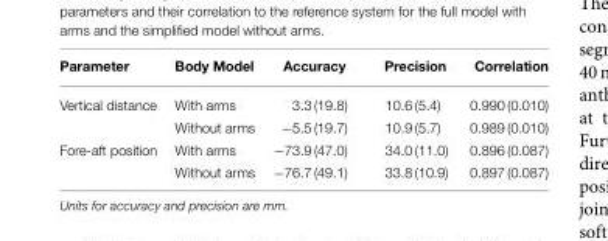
<table><thead><tr><td>Parameter</td><td>Body Model</td><td>Accuracy</td><td>Precision</td><td>Correlation</td></tr></thead><tbody><tr><td rowspan="2">Vertical distance</td><td>With arms</td><td>3.3 (19.8)</td><td>10.6 (5.4)</td><td>0.990 (0.010)</td></tr><tr><td>Without arms</td><td>−5.5 (19.7)</td><td>10.9 (5.7)</td><td>0.989 (0.010)</td></tr><tr><td rowspan="2">Fore-aft position</td><td>With arms</td><td>−73.9 (47.0)</td><td>34.0 (11.0)</td><td>0.896 (0.087)</td></tr><tr><td>Without arms</td><td>−76.7 (49.1)</td><td>33.8 (10.9)</td><td>0.897 (0.087)</td></tr></tbody></table>